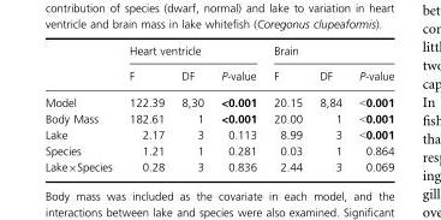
<table><thead><tr><td rowspan="2"></td><td colspan="3">Heart ventricle</td><td colspan="3">Brain</td></tr><tr><td>F</td><td>DF</td><td>P-value</td><td>F</td><td>DF</td><td>P-value</td></tr></thead><tbody><tr><td>Model</td><td>122.39</td><td>8,30</td><td>&lt;0.001</td><td>20.15</td><td>8,84</td><td>&lt;0.001</td></tr><tr><td>Body Mass</td><td>182.61</td><td>1</td><td>&lt;0.001</td><td>20.00</td><td>1</td><td>&lt;0.001</td></tr><tr><td>Lake</td><td>2.17</td><td>3</td><td>0.113</td><td>8.99</td><td>3</td><td>&lt;0.001</td></tr><tr><td>Species</td><td>1.21</td><td>1</td><td>0.281</td><td>0.03</td><td>1</td><td>0.864</td></tr><tr><td>Lake×Species</td><td>0.28</td><td>3</td><td>0.836</td><td>2.44</td><td>3</td><td>0.069</td></tr></tbody></table>